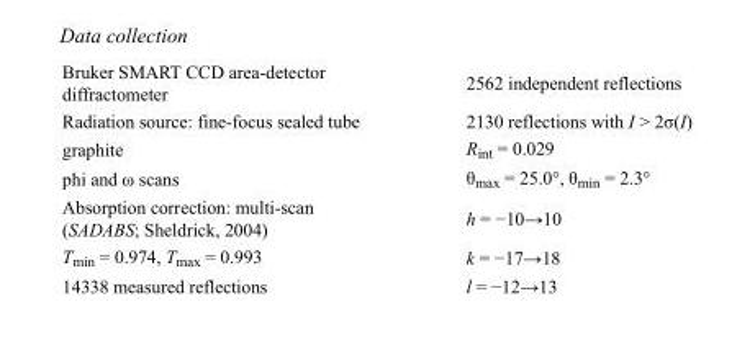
<table><tbody><tr><td>Bruker SMART CCD area-detector diffractometer</td><td>2562 independent reflections</td></tr><tr><td>Radiation source: fine-focus sealed tube</td><td>2130 reflections with I &gt; 2σ(I)</td></tr><tr><td>graphite</td><td>R<sub>int</sub> = 0.029</td></tr><tr><td>phi and ω scans</td><td>θ<sub>max</sub> = 25.0°, θ<sub>min</sub> = 2.3°</td></tr><tr><td>Absorption correction: multi-scan (SADABS; Sheldrick, 2004)</td><td>h = −10→10</td></tr><tr><td>T<sub>min</sub> = 0.974, T<sub>max</sub> = 0.993</td><td>k = −17→18</td></tr><tr><td>14338 measured reflections</td><td>l = −12→13</td></tr></tbody></table>